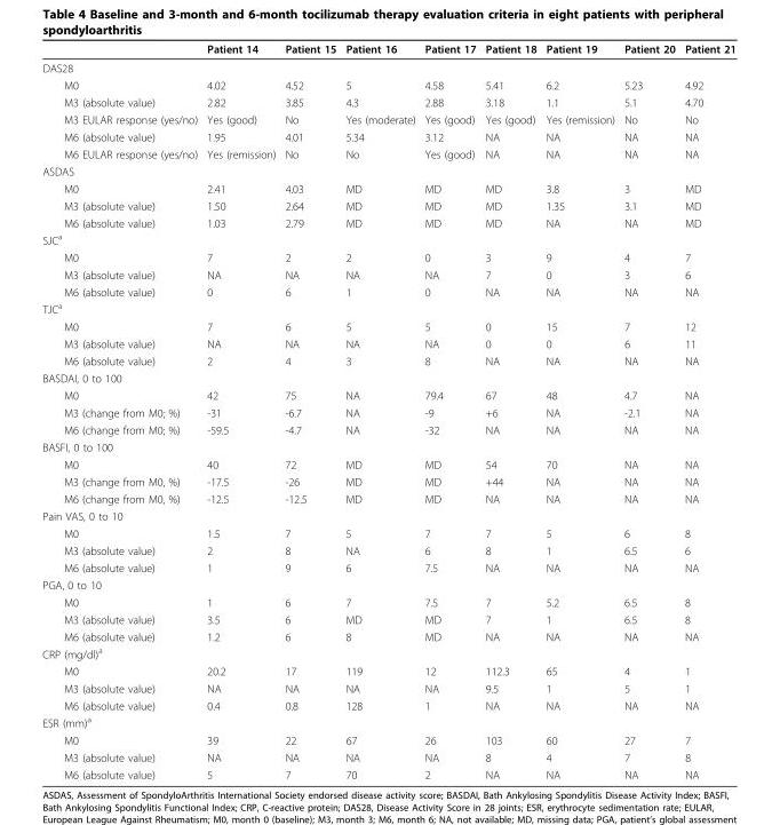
<table><thead><tr><td></td><td>Patient 14</td><td>Patient 15</td><td>Patient 16</td><td>Patient 17</td><td>Patient 18</td><td>Patient 19</td><td>Patient 20</td><td>Patient 21</td></tr></thead><tbody><tr><td colspan="9">DAS28</td></tr><tr><td>M0</td><td>4.02</td><td>4.52</td><td>5</td><td>4.58</td><td>5.41</td><td>6.2</td><td>5.23</td><td>4.92</td></tr><tr><td>M3 (absolute value)</td><td>2.82</td><td>3.85</td><td>4.3</td><td>2.88</td><td>3.18</td><td>1.1</td><td>5.1</td><td>4.70</td></tr><tr><td>M3 EULAR response (yes/no)</td><td>Yes (good)</td><td>No</td><td>Yes (moderate)</td><td>Yes (good)</td><td>Yes (good)</td><td>Yes (remission)</td><td>No</td><td>No</td></tr><tr><td>M6 (absolute value)</td><td>1.95</td><td>4.01</td><td>5.34</td><td>3.12</td><td>NA</td><td>NA</td><td>NA</td><td>NA</td></tr><tr><td>M6 EULAR response (yes/no)</td><td>Yes (remission)</td><td>No</td><td>No</td><td>Yes (good)</td><td>NA</td><td>NA</td><td>NA</td><td>NA</td></tr><tr><td colspan="9">ASDAS</td></tr><tr><td>M0</td><td>2.41</td><td>4.03</td><td>MD</td><td>MD</td><td>MD</td><td>3.8</td><td>3</td><td>MD</td></tr><tr><td>M3 (absolute value)</td><td>1.50</td><td>2.64</td><td>MD</td><td>MD</td><td>MD</td><td>1.35</td><td>3.1</td><td>MD</td></tr><tr><td>M6 (absolute value)</td><td>1.03</td><td>2.79</td><td>MD</td><td>MD</td><td>MD</td><td>NA</td><td>NA</td><td>MD</td></tr><tr><td colspan="9">SJC<sup>a</sup></td></tr><tr><td>M0</td><td>7</td><td>2</td><td>2</td><td>0</td><td>3</td><td>9</td><td>4</td><td>7</td></tr><tr><td>M3 (absolute value)</td><td>NA</td><td>NA</td><td>NA</td><td>NA</td><td>7</td><td>0</td><td>3</td><td>6</td></tr><tr><td>M6 (absolute value)</td><td>0</td><td>6</td><td>1</td><td>0</td><td>NA</td><td>NA</td><td>NA</td><td>NA</td></tr><tr><td colspan="9">TJC<sup>a</sup></td></tr><tr><td>M0</td><td>7</td><td>6</td><td>5</td><td>5</td><td>0</td><td>15</td><td>7</td><td>12</td></tr><tr><td>M3 (absolute value)</td><td>NA</td><td>NA</td><td>NA</td><td>NA</td><td>0</td><td>0</td><td>6</td><td>11</td></tr><tr><td>M6 (absolute value)</td><td>2</td><td>4</td><td>3</td><td>8</td><td>NA</td><td>NA</td><td>NA</td><td>NA</td></tr><tr><td colspan="9">BASDAI, 0 to 100</td></tr><tr><td>M0</td><td>42</td><td>75</td><td>NA</td><td>79.4</td><td>67</td><td>48</td><td>4.7</td><td>NA</td></tr><tr><td>M3 (change from M0; %)</td><td>-31</td><td>-6.7</td><td>NA</td><td>-9</td><td>+6</td><td>NA</td><td>-2.1</td><td>NA</td></tr><tr><td>M6 (change from M0; %)</td><td>-59.5</td><td>-4.7</td><td>NA</td><td>-32</td><td>NA</td><td>NA</td><td>NA</td><td>NA</td></tr><tr><td colspan="9">BASFI, 0 to 100</td></tr><tr><td>M0</td><td>40</td><td>72</td><td>MD</td><td>MD</td><td>54</td><td>70</td><td>NA</td><td>NA</td></tr><tr><td>M3 (change from M0, %)</td><td>-17.5</td><td>-26</td><td>MD</td><td>MD</td><td>+44</td><td>NA</td><td>NA</td><td>NA</td></tr><tr><td>M6 (change from M0, %)</td><td>-12.5</td><td>-12.5</td><td>MD</td><td>MD</td><td>NA</td><td>NA</td><td>NA</td><td>NA</td></tr><tr><td colspan="9">Pain VAS, 0 to 10</td></tr><tr><td>M0</td><td>1.5</td><td>7</td><td>5</td><td>7</td><td>7</td><td>5</td><td>6</td><td>8</td></tr><tr><td>M3 (absolute value)</td><td>2</td><td>8</td><td>NA</td><td>6</td><td>8</td><td>1</td><td>6.5</td><td>6</td></tr><tr><td>M6 (absolute value)</td><td>1</td><td>9</td><td>6</td><td>7.5</td><td>NA</td><td>NA</td><td>NA</td><td>NA</td></tr><tr><td colspan="9">PGA, 0 to 10</td></tr><tr><td>M0</td><td>1</td><td>6</td><td>7</td><td>7.5</td><td>7</td><td>5.2</td><td>6.5</td><td>8</td></tr><tr><td>M3 (absolute value)</td><td>3.5</td><td>6</td><td>MD</td><td>MD</td><td>7</td><td>1</td><td>6.5</td><td>8</td></tr><tr><td>M6 (absolute value)</td><td>1.2</td><td>6</td><td>8</td><td>MD</td><td>NA</td><td>NA</td><td>NA</td><td>NA</td></tr><tr><td colspan="9">CRP (mg/dl)<sup>a</sup></td></tr><tr><td>M0</td><td>20.2</td><td>17</td><td>119</td><td>12</td><td>112.3</td><td>65</td><td>4</td><td>1</td></tr><tr><td>M3 (absolute value)</td><td>NA</td><td>NA</td><td>NA</td><td>NA</td><td>9.5</td><td>1</td><td>5</td><td>1</td></tr><tr><td>M6 (absolute value)</td><td>0.4</td><td>0.8</td><td>128</td><td>1</td><td>NA</td><td>NA</td><td>NA</td><td>NA</td></tr><tr><td colspan="9">ESR (mm)<sup>a</sup></td></tr><tr><td>M0</td><td>39</td><td>22</td><td>67</td><td>26</td><td>103</td><td>60</td><td>27</td><td>7</td></tr><tr><td>M3 (absolute value)</td><td>NA</td><td>NA</td><td>NA</td><td>NA</td><td>8</td><td>4</td><td>7</td><td>8</td></tr><tr><td>M6 (absolute value)</td><td>5</td><td>7</td><td>70</td><td>2</td><td>NA</td><td>NA</td><td>NA</td><td>NA</td></tr></tbody></table>